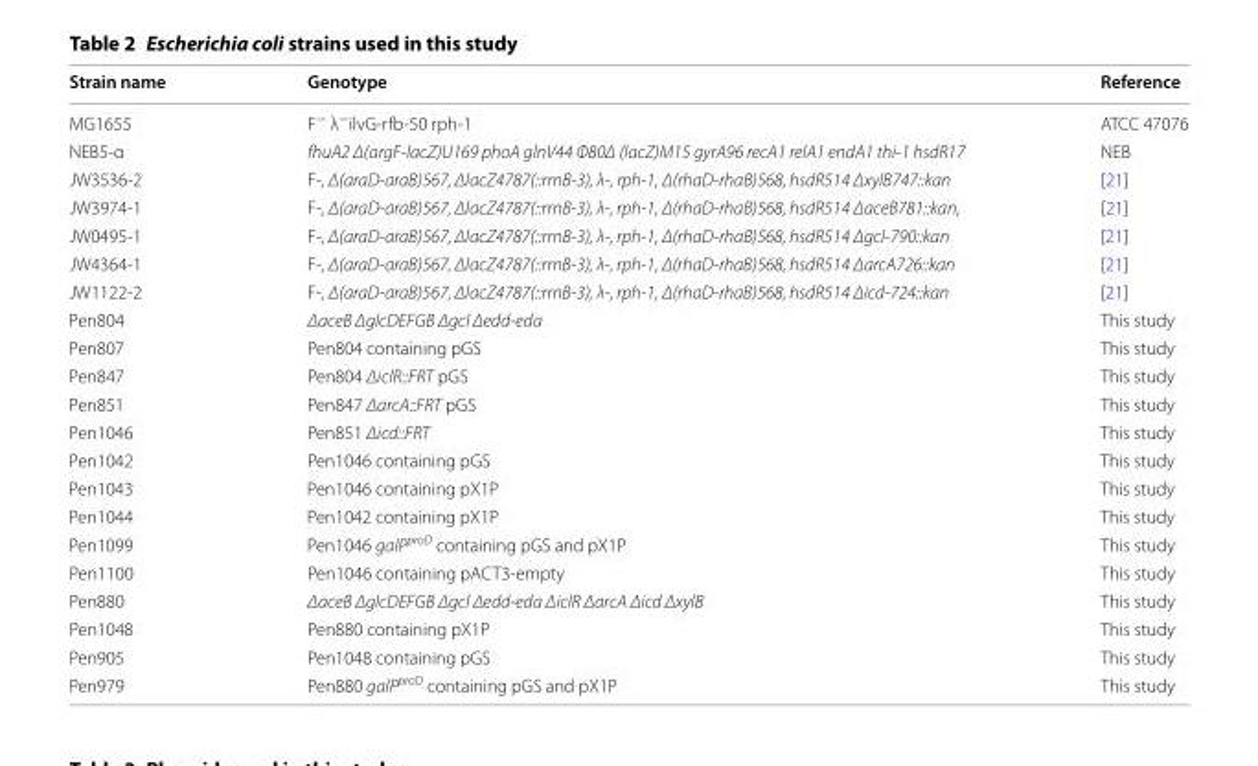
<table><thead><tr><td>Strain name</td><td>Genotype</td><td>Reference</td></tr></thead><tbody><tr><td>MG1655</td><td>F<sup>−</sup> λ<sup>−</sup>ilvG-rfb-50 rph-1</td><td>ATCC 47076</td></tr><tr><td>NEB5-α</td><td>fhuA2 Δ(argF-lacZ)U169 phoA glnV44 Φ80Δ (lacZ)M15 gyrA96 recA1 relA1 endA1 thi-1 hsdR17</td><td>NEB</td></tr><tr><td>JW3536-2</td><td>F-, Δ(araD-araB)567, ΔlacZ4787(::rrnB-3), λ-, rph-1, Δ(rhaD-rhaB)568, hsdR514 ΔxylB747::kan</td><td>[21]</td></tr><tr><td>JW3974-1</td><td>F-, Δ(araD-araB)567, ΔlacZ4787(::rrnB-3), λ-, rph-1, Δ(rhaD-rhaB)568, hsdR514 ΔaceB781::kan,</td><td>[21]</td></tr><tr><td>JW0495-1</td><td>F-, Δ(araD-araB)567, ΔlacZ4787(::rrnB-3), λ-, rph-1, Δ(rhaD-rhaB)568, hsdR514 Δgcl-790::kan</td><td>[21]</td></tr><tr><td>JW4364-1</td><td>F-, Δ(araD-araB)567, ΔlacZ4787(::rrnB-3), λ-, rph-1, Δ(rhaD-rhaB)568, hsdR514 ΔarcA726::kan</td><td>[21]</td></tr><tr><td>JW1122-2</td><td>F-, Δ(araD-araB)567, ΔlacZ4787(::rrnB-3), λ-, rph-1, Δ(rhaD-rhaB)568, hsdR514 Δicd-724::kan</td><td>[21]</td></tr><tr><td>Pen804</td><td>ΔaceB ΔglcDEFGB Δgcl Δedd-eda</td><td>This study</td></tr><tr><td>Pen807</td><td>Pen804 containing pGS</td><td>This study</td></tr><tr><td>Pen847</td><td>Pen804 ΔiclR::FRT pGS</td><td>This study</td></tr><tr><td>Pen851</td><td>Pen847 ΔarcA::FRT pGS</td><td>This study</td></tr><tr><td>Pen1046</td><td>Pen851 Δicd::FRT</td><td>This study</td></tr><tr><td>Pen1042</td><td>Pen1046 containing pGS</td><td>This study</td></tr><tr><td>Pen1043</td><td>Pen1046 containing pX1P</td><td>This study</td></tr><tr><td>Pen1044</td><td>Pen1042 containing pX1P</td><td>This study</td></tr><tr><td>Pen1099</td><td>Pen1046 galP<sup>proD</sup> containing pGS and pX1P</td><td>This study</td></tr><tr><td>Pen1100</td><td>Pen1046 containing pACT3-empty</td><td>This study</td></tr><tr><td>Pen880</td><td>ΔaceB ΔglcDEFGB Δgcl Δedd-eda ΔiclR ΔarcA Δicd ΔxylB</td><td>This study</td></tr><tr><td>Pen1048</td><td>Pen880 containing pX1P</td><td>This study</td></tr><tr><td>Pen905</td><td>Pen1048 containing pGS</td><td>This study</td></tr><tr><td>Pen979</td><td>Pen880 galP<sup>proD</sup> containing pGS and pX1P</td><td>This study</td></tr></tbody></table>